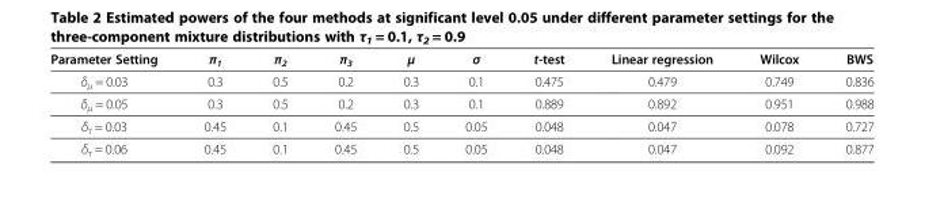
<table><thead><tr><td>Parameter Setting</td><td>π<sub>1</sub></td><td>π<sub>2</sub></td><td>π<sub>3</sub></td><td>μ</td><td>σ</td><td>t-test</td><td>Linear regression</td><td>Wilcox</td><td>BWS</td></tr></thead><tbody><tr><td>δ<sub>μ</sub> = 0.03</td><td>0.3</td><td>0.5</td><td>0.2</td><td>0.3</td><td>0.1</td><td>0.475</td><td>0.479</td><td>0.749</td><td>0.836</td></tr><tr><td>δ<sub>μ</sub> = 0.05</td><td>0.3</td><td>0.5</td><td>0.2</td><td>0.3</td><td>0.1</td><td>0.889</td><td>0.892</td><td>0.951</td><td>0.988</td></tr><tr><td>δ<sub>τ</sub> = 0.03</td><td>0.45</td><td>0.1</td><td>0.45</td><td>0.5</td><td>0.05</td><td>0.048</td><td>0.047</td><td>0.078</td><td>0.727</td></tr><tr><td>δ<sub>τ</sub> = 0.06</td><td>0.45</td><td>0.1</td><td>0.45</td><td>0.5</td><td>0.05</td><td>0.048</td><td>0.047</td><td>0.092</td><td>0.877</td></tr></tbody></table>